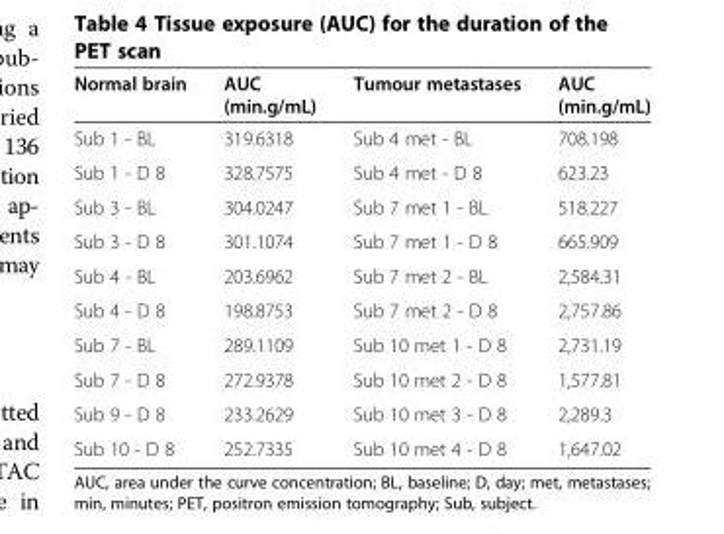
<table><thead><tr><td>Normal brain</td><td>AUC (min.g/mL)</td><td>Tumour metastases</td><td>AUC (min.g/mL)</td></tr></thead><tbody><tr><td>Sub 1 - BL</td><td>319.6318</td><td>Sub 4 met - BL</td><td>708.198</td></tr><tr><td>Sub 1 - D 8</td><td>328.7575</td><td>Sub 4 met - D 8</td><td>623.23</td></tr><tr><td>Sub 3 - BL</td><td>304.0247</td><td>Sub 7 met 1 - BL</td><td>518.227</td></tr><tr><td>Sub 3 - D 8</td><td>301.1074</td><td>Sub 7 met 1 - D 8</td><td>665.909</td></tr><tr><td>Sub 4 - BL</td><td>203.6962</td><td>Sub 7 met 2 - BL</td><td>2,584.31</td></tr><tr><td>Sub 4 - D 8</td><td>198.8753</td><td>Sub 7 met 2 - D 8</td><td>2,757.86</td></tr><tr><td>Sub 7 - BL</td><td>289.1109</td><td>Sub 10 met 1 - D 8</td><td>2,731.19</td></tr><tr><td>Sub 7 - D 8</td><td>272.9378</td><td>Sub 10 met 2 - D 8</td><td>1,577.81</td></tr><tr><td>Sub 9 - D 8</td><td>233.2629</td><td>Sub 10 met 3 - D 8</td><td>2,289.3</td></tr><tr><td>Sub 10 - D 8</td><td>252.7335</td><td>Sub 10 met 4 - D 8</td><td>1,647.02</td></tr></tbody></table>